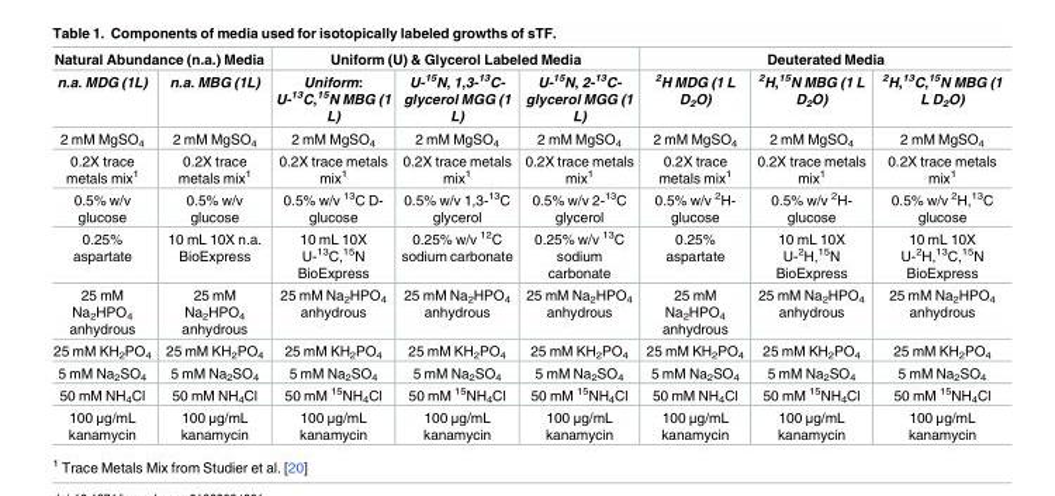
<table><thead><tr><td colspan="2">Natural Abundance (n.a.) Media</td><td colspan="3">Uniform (U) &amp; Glycerol Labeled Media</td><td colspan="3">Deuterated Media</td></tr><tr><td>n.a. MDG (1L)</td><td>n.a. MBG (1L)</td><td>Uniform: U-<sup>13</sup>C,<sup>15</sup>N MBG (1 L)</td><td>U-<sup>15</sup>N, 1,3-<sup>13</sup>C- glycerol MGG (1 L)</td><td>U-<sup>15</sup>N, 2-<sup>13</sup>C- glycerol MGG (1 L)</td><td><sup>2</sup>H MDG (1 L D<sub>2</sub>O)</td><td><sup>2</sup>H,<sup>15</sup>N MBG (1 L D<sub>2</sub>O)</td><td><sup>2</sup>H,<sup>13</sup>C,<sup>15</sup>N MBG (1 L D<sub>2</sub>O)</td></tr></thead><tbody><tr><td>2 mM MgSO<sub>4</sub></td><td>2 mM MgSO<sub>4</sub></td><td>2 mM MgSO<sub>4</sub></td><td>2 mM MgSO<sub>4</sub></td><td>2 mM MgSO<sub>4</sub></td><td>2 mM MgSO<sub>4</sub></td><td>2 mM MgSO<sub>4</sub></td><td>2 mM MgSO<sub>4</sub></td></tr><tr><td>0.2X trace metals mix<sup>1</sup></td><td>0.2X trace metals mix<sup>1</sup></td><td>0.2X trace metals mix<sup>1</sup></td><td>0.2X trace metals mix<sup>1</sup></td><td>0.2X trace metals mix<sup>1</sup></td><td>0.2X trace metals mix<sup>1</sup></td><td>0.2X trace metals mix<sup>1</sup></td><td>0.2X trace metals mix<sup>1</sup></td></tr><tr><td>0.5% w/v glucose</td><td>0.5% w/v glucose</td><td>0.5% w/v <sup>13</sup>C D- glucose</td><td>0.5% w/v 1,3-<sup>13</sup>C glycerol</td><td>0.5% w/v 2-<sup>13</sup>C glycerol</td><td>0.5% w/v <sup>2</sup>H- glucose</td><td>0.5% w/v <sup>2</sup>H- glucose</td><td>0.5% w/v <sup>2</sup>H,<sup>13</sup>C glucose</td></tr><tr><td>0.25% aspartate</td><td>10 mL 10X n.a. BioExpress</td><td>10 mL 10X U-<sup>13</sup>C,<sup>15</sup>N BioExpress</td><td>0.25% w/v <sup>12</sup>C sodium carbonate</td><td>0.25% w/v <sup>13</sup>C sodium carbonate</td><td>0.25% aspartate</td><td>10 mL 10X U-<sup>2</sup>H,<sup>15</sup>N BioExpress</td><td>10 mL 10X U-<sup>2</sup>H,<sup>13</sup>C,<sup>15</sup>N BioExpress</td></tr><tr><td>25 mM Na<sub>2</sub>HPO<sub>4</sub> anhydrous</td><td>25 mM Na<sub>2</sub>HPO<sub>4</sub> anhydrous</td><td>25 mM Na<sub>2</sub>HPO<sub>4</sub> anhydrous</td><td>25 mM Na<sub>2</sub>HPO<sub>4</sub> anhydrous</td><td>25 mM Na<sub>2</sub>HPO<sub>4</sub> anhydrous</td><td>25 mM Na<sub>2</sub>HPO<sub>4</sub> anhydrous</td><td>25 mM Na<sub>2</sub>HPO<sub>4</sub> anhydrous</td><td>25 mM Na<sub>2</sub>HPO<sub>4</sub> anhydrous</td></tr><tr><td>25 mM KH<sub>2</sub>PO<sub>4</sub></td><td>25 mM KH<sub>2</sub>PO<sub>4</sub></td><td>25 mM KH<sub>2</sub>PO<sub>4</sub></td><td>25 mM KH<sub>2</sub>PO<sub>4</sub></td><td>25 mM KH<sub>2</sub>PO<sub>4</sub></td><td>25 mM KH<sub>2</sub>PO<sub>4</sub></td><td>25 mM KH<sub>2</sub>PO<sub>4</sub></td><td>25 mM KH<sub>2</sub>PO<sub>4</sub></td></tr><tr><td>5 mM Na<sub>2</sub>SO<sub>4</sub></td><td>5 mM Na<sub>2</sub>SO<sub>4</sub></td><td>5 mM Na<sub>2</sub>SO<sub>4</sub></td><td>5 mM Na<sub>2</sub>SO<sub>4</sub></td><td>5 mM Na<sub>2</sub>SO<sub>4</sub></td><td>5 mM Na<sub>2</sub>SO<sub>4</sub></td><td>5 mM Na<sub>2</sub>SO<sub>4</sub></td><td>5 mM Na<sub>2</sub>SO<sub>4</sub></td></tr><tr><td>50 mM NH<sub>4</sub>Cl</td><td>50 mM NH<sub>4</sub>Cl</td><td>50 mM <sup>15</sup>NH<sub>4</sub>Cl</td><td>50 mM <sup>15</sup>NH<sub>4</sub>Cl</td><td>50 mM <sup>15</sup>NH<sub>4</sub>Cl</td><td>50 mM NH<sub>4</sub>Cl</td><td>50 mM <sup>15</sup>NH<sub>4</sub>Cl</td><td>50 mM <sup>15</sup>NH<sub>4</sub>Cl</td></tr><tr><td>100 μg/mL kanamycin</td><td>100 μg/mL kanamycin</td><td>100 μg/mL kanamycin</td><td>100 μg/mL kanamycin</td><td>100 μg/mL kanamycin</td><td>100 μg/mL kanamycin</td><td>100 μg/mL kanamycin</td><td>100 μg/mL kanamycin</td></tr></tbody></table>